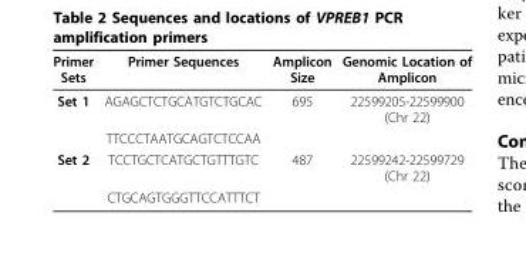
<table><thead><tr><td>Primer Sets</td><td>Primer Sequences</td><td>Amplicon Size</td><td>Genomic Location of Amplicon</td></tr></thead><tbody><tr><td rowspan="2">Set 1</td><td>AGAGCTCTGCATGTCTGCAC</td><td>695</td><td>22599205-22599900 (Chr 22)</td></tr><tr><td>TTCCCTAATGCAGTCTCCAA</td><td></td><td></td></tr><tr><td rowspan="2">Set 2</td><td>TCCTGCTCATGCTGTTTGTC</td><td>487</td><td>22599242-22599729 (Chr 22)</td></tr><tr><td>CTGCAGTGGGTTCCATTTCT</td><td></td><td></td></tr></tbody></table>